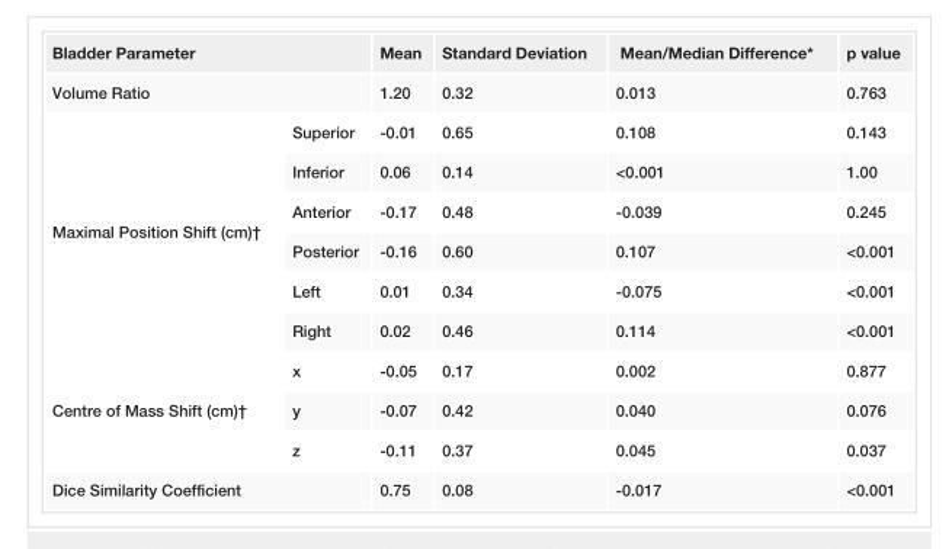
<table><tbody><tr><td colspan="2">Bladder Parameter</td><td>Mean</td><td>Standard Deviation</td><td>Mean/Median Difference*</td><td>p value</td></tr><tr><td colspan="2">Volume Ratio</td><td>1.20</td><td>0.32</td><td>0.013</td><td>0.763</td></tr><tr><td rowspan="6">Maximal Position Shift (cm)†</td><td>Superior</td><td>-0.01</td><td>0.65</td><td>0.108</td><td>0.143</td></tr><tr><td>Inferior</td><td>0.06</td><td>0.14</td><td>&lt;0.001</td><td>1.00</td></tr><tr><td>Anterior</td><td>-0.17</td><td>0.48</td><td>-0.039</td><td>0.245</td></tr><tr><td>Posterior</td><td>-0.16</td><td>0.60</td><td>0.107</td><td>&lt;0.001</td></tr><tr><td>Left</td><td>0.01</td><td>0.34</td><td>-0.075</td><td>&lt;0.001</td></tr><tr><td>Right</td><td>0.02</td><td>0.46</td><td>0.114</td><td>&lt;0.001</td></tr><tr><td rowspan="3">Centre of Mass Shift (cm)†</td><td>x</td><td>-0.05</td><td>0.17</td><td>0.002</td><td>0.877</td></tr><tr><td>y</td><td>-0.07</td><td>0.42</td><td>0.040</td><td>0.076</td></tr><tr><td>z</td><td>-0.11</td><td>0.37</td><td>0.045</td><td>0.037</td></tr><tr><td colspan="2">Dice Similarity Coefficient</td><td>0.75</td><td>0.08</td><td>-0.017</td><td>&lt;0.001</td></tr></tbody></table>